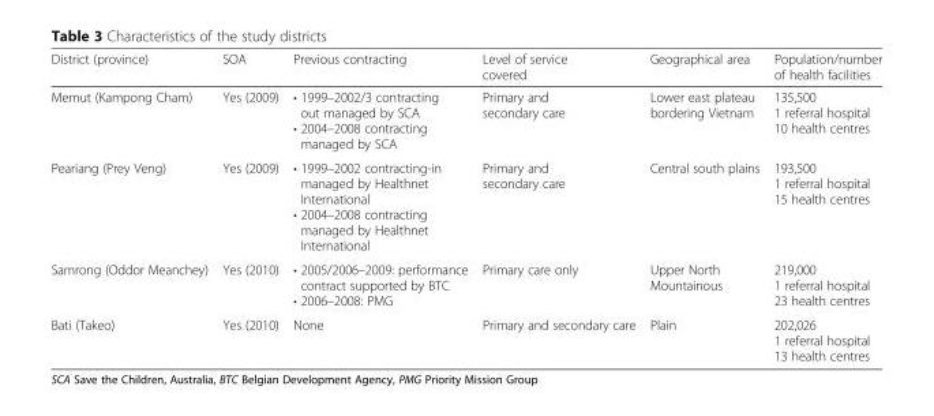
<table><thead><tr><td>District (province)</td><td>SOA</td><td>Previous contracting</td><td>Level of service covered</td><td>Geographical area</td><td>Population/number of health facilities</td></tr></thead><tbody><tr><td>Memut (Kampong Cham)</td><td>Yes (2009)</td><td>• 1999–2002/3 contracting out managed by SCA • 2004–2008 contracting managed by SCA</td><td>Primary and secondary care</td><td>Lower east plateau bordering Vietnam</td><td>135,500 1 referral hospital 10 health centres</td></tr><tr><td>Peariang (Prey Veng)</td><td>Yes (2009)</td><td>• 1999–2002 contracting-in managed by Healthnet International • 2004–2008 contracting managed by Healthnet International</td><td>Primary and secondary care</td><td>Central south plains</td><td>193,500 1 referral hospital 15 health centres</td></tr><tr><td>Samrong (Oddor Meanchey)</td><td>Yes (2010)</td><td>• 2005/2006–2009: performance contract supported by BTC • 2006–2008: PMG</td><td>Primary care only</td><td>Upper North Mountainous</td><td>219,000 1 referral hospital 23 health centres</td></tr><tr><td>Bati (Takeo)</td><td>Yes (2010)</td><td>None</td><td>Primary and secondary care</td><td>Plain</td><td>202,026 1 referral hospital 13 health centres</td></tr></tbody></table>